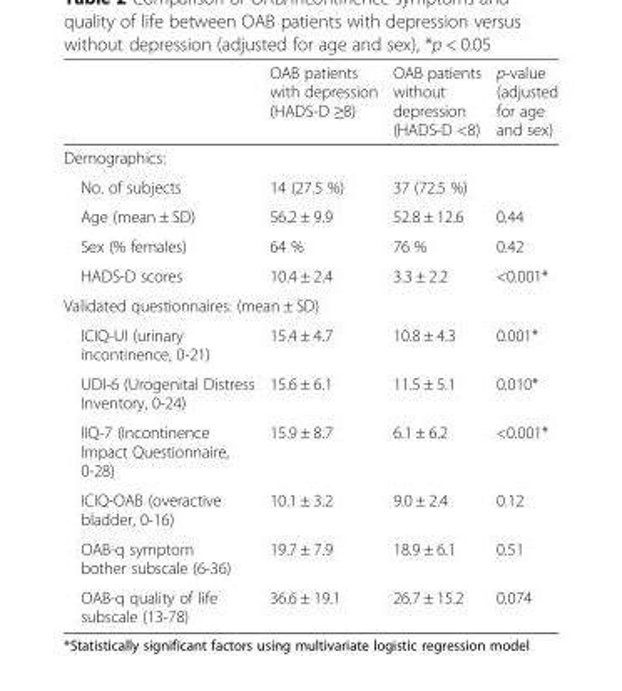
<table><thead><tr><td></td><td>OAB patients with depression (HADS-D ≥8)</td><td>OAB patients without depression (HADS-D &lt;8)</td><td>p-value (adjusted for age and sex)</td></tr></thead><tbody><tr><td colspan="4">Demographics:</td></tr><tr><td>No. of subjects</td><td>14 (27.5 %)</td><td>37 (72.5 %)</td><td></td></tr><tr><td>Age (mean ± SD)</td><td>56.2 ± 9.9</td><td>52.8 ± 12.6</td><td>0.44</td></tr><tr><td>Sex (% females)</td><td>64 %</td><td>76 %</td><td>0.42</td></tr><tr><td>HADS-D scores</td><td>10.4 ± 2.4</td><td>3.3 ± 2.2</td><td>&lt;0.001*</td></tr><tr><td colspan="4">Validated questionnaires: (mean ± SD)</td></tr><tr><td>ICIQ-UI (urinary incontinence, 0-21)</td><td>15.4 ± 4.7</td><td>10.8 ± 4.3</td><td>0.001*</td></tr><tr><td>UDI-6 (Urogenital Distress Inventory, 0-24)</td><td>15.6 ± 6.1</td><td>11.5 ± 5.1</td><td>0.010*</td></tr><tr><td>IIQ-7 (Incontinence Impact Questionnaire, 0-28)</td><td>15.9 ± 8.7</td><td>6.1 ± 6.2</td><td>&lt;0.001*</td></tr><tr><td>ICIQ-OAB (overactive bladder, 0-16)</td><td>10.1 ± 3.2</td><td>9.0 ± 2.4</td><td>0.12</td></tr><tr><td>OAB-q symptom bother subscale (6-36)</td><td>19.7 ± 7.9</td><td>18.9 ± 6.1</td><td>0.51</td></tr><tr><td>OAB-q quality of life subscale (13-78)</td><td>36.6 ± 19.1</td><td>26.7 ± 15.2</td><td>0.074</td></tr></tbody></table>